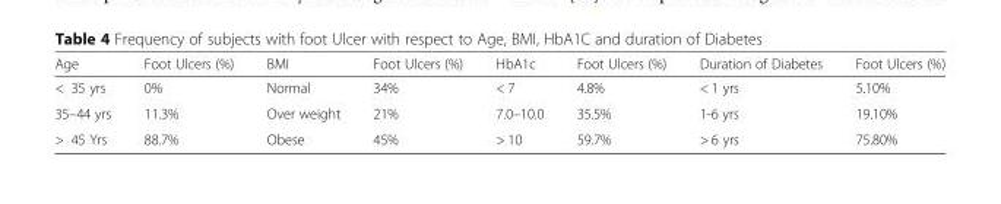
<table><thead><tr><td>Age</td><td>Foot Ulcers (%)</td><td>BMI</td><td>Foot Ulcers (%)</td><td>HbA1c</td><td>Foot Ulcers (%)</td><td>Duration of Diabetes</td><td>Foot Ulcers (%)</td></tr></thead><tbody><tr><td>&lt; 35 yrs</td><td>0%</td><td>Normal</td><td>34%</td><td>&lt; 7</td><td>4.8%</td><td>&lt; 1 yrs</td><td>5.10%</td></tr><tr><td>35–44 yrs</td><td>11.3%</td><td>Over weight</td><td>21%</td><td>7.0–10.0</td><td>35.5%</td><td>1-6 yrs</td><td>19.10%</td></tr><tr><td>&gt; 45 Yrs</td><td>88.7%</td><td>Obese</td><td>45%</td><td>&gt; 10</td><td>59.7%</td><td>&gt; 6 yrs</td><td>75.80%</td></tr></tbody></table>